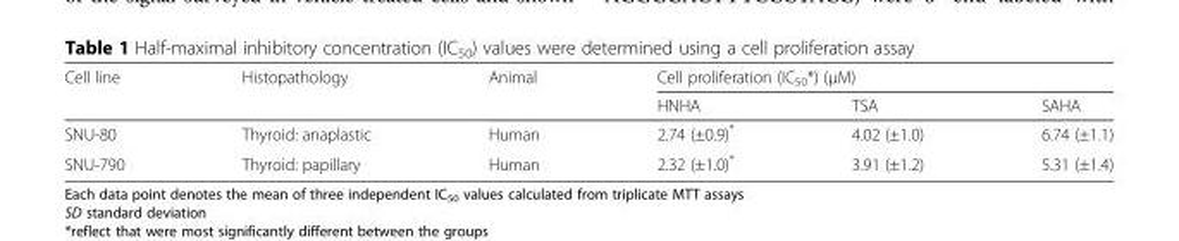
<table><thead><tr><td rowspan="2">Cell line</td><td rowspan="2">Histopathology</td><td rowspan="2">Animal</td><td colspan="3">Cell proliferation (IC<sub>50</sub>*) (μM)</td></tr><tr><td>HNHA</td><td>TSA</td><td>SAHA</td></tr></thead><tbody><tr><td>SNU-80</td><td>Thyroid: anaplastic</td><td>Human</td><td>2.74 (±0.9)*</td><td>4.02 (±1.0)</td><td>6.74 (±1.1)</td></tr><tr><td>SNU-790</td><td>Thyroid: papillary</td><td>Human</td><td>2.32 (±1.0)*</td><td>3.91 (±1.2)</td><td>5.31 (±1.4)</td></tr></tbody></table>